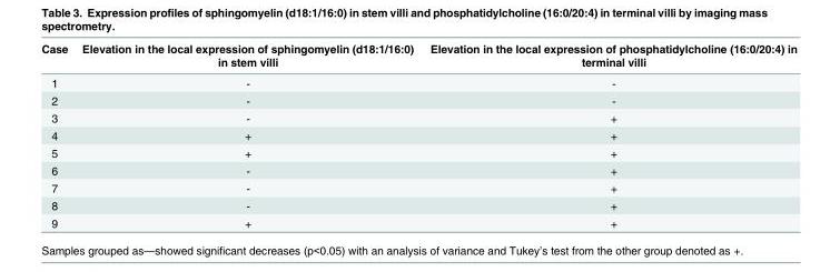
<table><thead><tr><td>Case</td><td>Elevation in the local expression of sphingomyelin (d18:1/16:0) in stem villi</td><td>Elevation in the local expression of phosphatidylcholine (16:0/20:4) in terminal villi</td></tr></thead><tbody><tr><td>1</td><td>-</td><td>-</td></tr><tr><td>2</td><td>-</td><td>-</td></tr><tr><td>3</td><td>-</td><td>+</td></tr><tr><td>4</td><td>+</td><td>+</td></tr><tr><td>5</td><td>+</td><td>+</td></tr><tr><td>6</td><td>-</td><td>+</td></tr><tr><td>7</td><td>-</td><td>+</td></tr><tr><td>8</td><td>-</td><td>+</td></tr><tr><td>9</td><td>+</td><td>+</td></tr></tbody></table>